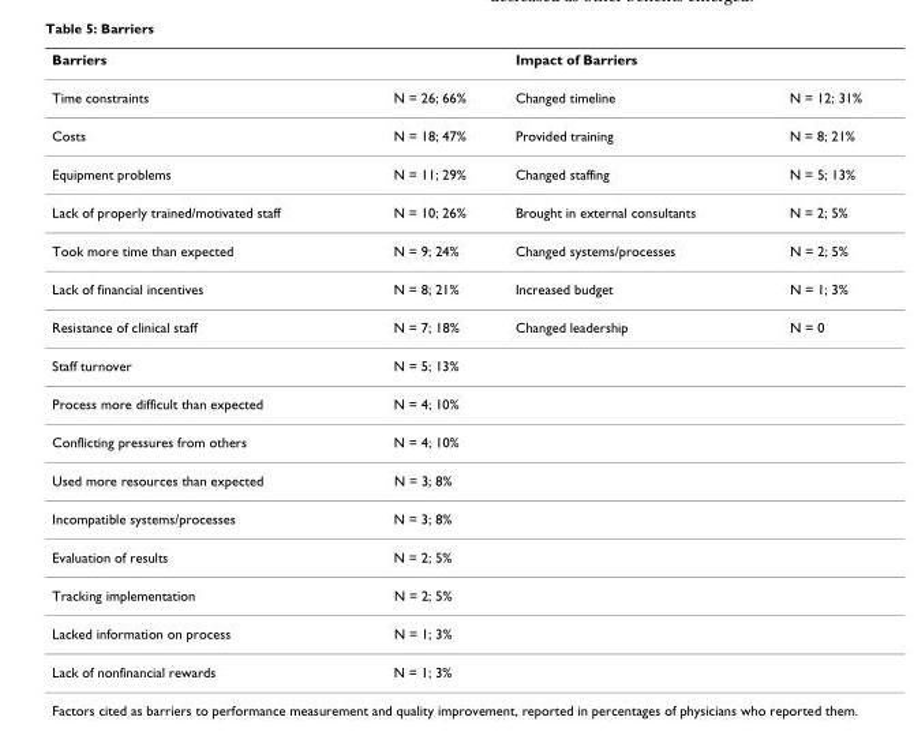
<table><thead><tr><td>Barriers</td><td></td><td>Impact of Barriers</td><td></td></tr></thead><tbody><tr><td>Time constraints</td><td>N = 26; 66%</td><td>Changed timeline</td><td>N = 12; 31%</td></tr><tr><td>Costs</td><td>N = 18; 47%</td><td>Provided training</td><td>N = 8; 21%</td></tr><tr><td>Equipment problems</td><td>N = 11; 29%</td><td>Changed staffing</td><td>N = 5; 13%</td></tr><tr><td>Lack of properly trained/motivated staff</td><td>N = 10; 26%</td><td>Brought in external consultants</td><td>N = 2; 5%</td></tr><tr><td>Took more time than expected</td><td>N = 9; 24%</td><td>Changed systems/processes</td><td>N = 2; 5%</td></tr><tr><td>Lack of financial incentives</td><td>N = 8; 21%</td><td>Increased budget</td><td>N = 1; 3%</td></tr><tr><td>Resistance of clinical staff</td><td>N = 7; 18%</td><td>Changed leadership</td><td>N = 0</td></tr><tr><td>Staff turnover</td><td>N = 5; 13%</td><td></td><td></td></tr><tr><td>Process more difficult than expected</td><td>N = 4; 10%</td><td></td><td></td></tr><tr><td>Conflicting pressures from others</td><td>N = 4; 10%</td><td></td><td></td></tr><tr><td>Used more resources than expected</td><td>N = 3; 8%</td><td></td><td></td></tr><tr><td>Incompatible systems/processes</td><td>N = 3; 8%</td><td></td><td></td></tr><tr><td>Evaluation of results</td><td>N = 2; 5%</td><td></td><td></td></tr><tr><td>Tracking implementation</td><td>N = 2; 5%</td><td></td><td></td></tr><tr><td>Lacked information on process</td><td>N = 1; 3%</td><td></td><td></td></tr><tr><td>Lack of nonfinancial rewards</td><td>N = 1; 3%</td><td></td><td></td></tr></tbody></table>